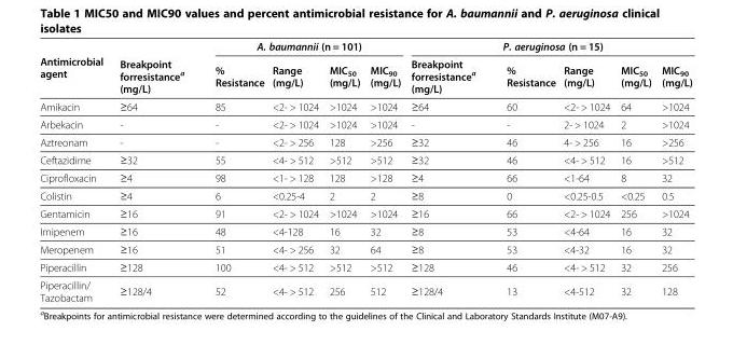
<table><thead><tr><td rowspan="2">Antimicrobial agent</td><td rowspan="2">Breakpoint forresistance<sup>a</sup> (mg/L)</td><td colspan="4">A. baumannii (n = 101)</td><td colspan="5">P. aeruginosa (n = 15)</td></tr><tr><td>% Resistance</td><td>Range (mg/L)</td><td>MIC<sub>50</sub> (mg/L)</td><td>MIC<sub>90</sub> (mg/L)</td><td>Breakpoint forresistance<sup>a</sup> (mg/L)</td><td>% Resistance</td><td>Range (mg/L)</td><td>MIC<sub>50</sub> (mg/L)</td><td>MIC<sub>90</sub> (mg/L)</td></tr></thead><tbody><tr><td>Amikacin</td><td>≥64</td><td>85</td><td>&lt;2- &gt; 1024</td><td>&gt;1024</td><td>&gt;1024</td><td>≥64</td><td>60</td><td>&lt;2- &gt; 1024</td><td>64</td><td>&gt;1024</td></tr><tr><td>Arbekacin</td><td>-</td><td>-</td><td>&lt;2- &gt; 1024</td><td>&gt;1024</td><td>&gt;1024</td><td>-</td><td>-</td><td>2- &gt; 1024</td><td>2</td><td>&gt;1024</td></tr><tr><td>Aztreonam</td><td>-</td><td>-</td><td>&lt;2- &gt; 256</td><td>128</td><td>&gt;256</td><td>≥32</td><td>46</td><td>4- &gt; 256</td><td>16</td><td>&gt;256</td></tr><tr><td>Ceftazidime</td><td>≥32</td><td>55</td><td>&lt;4- &gt; 512</td><td>&gt;512</td><td>&gt;512</td><td>≥32</td><td>46</td><td>&lt;4- &gt; 512</td><td>16</td><td>&gt;512</td></tr><tr><td>Ciprofloxacin</td><td>≥4</td><td>98</td><td>&lt;1- &gt; 128</td><td>128</td><td>&gt;128</td><td>≥4</td><td>66</td><td>&lt;1-64</td><td>8</td><td>32</td></tr><tr><td>Colistin</td><td>≥4</td><td>6</td><td>&lt;0.25-4</td><td>2</td><td>2</td><td>≥8</td><td>0</td><td>&lt;0.25-0.5</td><td>&lt;0.25</td><td>0.5</td></tr><tr><td>Gentamicin</td><td>≥16</td><td>91</td><td>&lt;2- &gt; 1024</td><td>&gt;1024</td><td>&gt;1024</td><td>≥16</td><td>66</td><td>&lt;2- &gt; 1024</td><td>256</td><td>&gt;1024</td></tr><tr><td>Imipenem</td><td>≥16</td><td>48</td><td>&lt;4-128</td><td>16</td><td>32</td><td>≥8</td><td>53</td><td>&lt;4-64</td><td>16</td><td>32</td></tr><tr><td>Meropenem</td><td>≥16</td><td>51</td><td>&lt;4- &gt; 256</td><td>32</td><td>64</td><td>≥8</td><td>53</td><td>&lt;4-32</td><td>16</td><td>32</td></tr><tr><td>Piperacillin</td><td>≥128</td><td>100</td><td>&lt;4- &gt; 512</td><td>&gt;512</td><td>&gt;512</td><td>≥128</td><td>46</td><td>&lt;4- &gt; 512</td><td>32</td><td>256</td></tr><tr><td>Piperacillin/ Tazobactam</td><td>≥128/4</td><td>52</td><td>&lt;4- &gt; 512</td><td>256</td><td>512</td><td>≥128/4</td><td>13</td><td>&lt;4-512</td><td>32</td><td>128</td></tr></tbody></table>